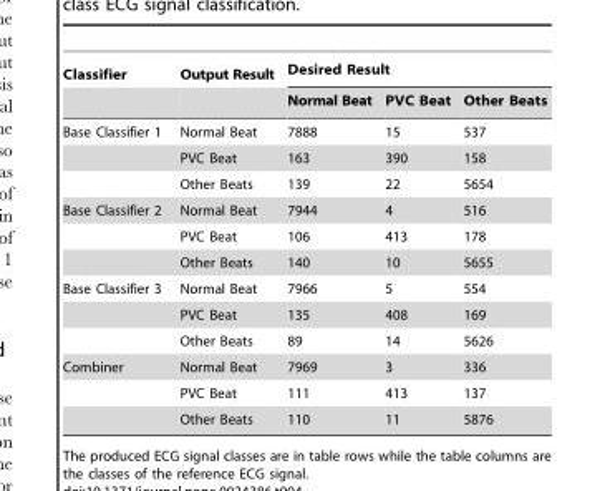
<table><thead><tr><td rowspan="2">Classifier</td><td rowspan="2">Output Result</td><td colspan="3">Desired Result</td></tr><tr><td>Normal Beat</td><td>PVC Beat</td><td>Other Beats</td></tr></thead><tbody><tr><td rowspan="3">Base Classifier 1</td><td>Normal Beat</td><td>7888</td><td>15</td><td>537</td></tr><tr><td>PVC Beat</td><td>163</td><td>390</td><td>158</td></tr><tr><td>Other Beats</td><td>139</td><td>22</td><td>5654</td></tr><tr><td rowspan="3">Base Classifier 2</td><td>Normal Beat</td><td>7944</td><td>4</td><td>516</td></tr><tr><td>PVC Beat</td><td>106</td><td>413</td><td>178</td></tr><tr><td>Other Beats</td><td>140</td><td>10</td><td>5655</td></tr><tr><td rowspan="3">Base Classifier 3</td><td>Normal Beat</td><td>7966</td><td>5</td><td>554</td></tr><tr><td>PVC Beat</td><td>135</td><td>408</td><td>169</td></tr><tr><td>Other Beats</td><td>89</td><td>14</td><td>5626</td></tr><tr><td rowspan="3">Combiner</td><td>Normal Beat</td><td>7969</td><td>3</td><td>336</td></tr><tr><td>PVC Beat</td><td>111</td><td>413</td><td>137</td></tr><tr><td>Other Beats</td><td>110</td><td>11</td><td>5876</td></tr></tbody></table>